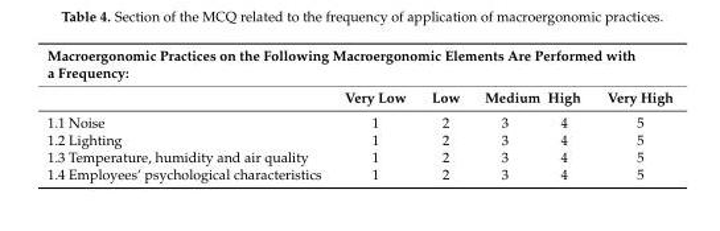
<table><thead><tr><td colspan="6">Macroergonomic Practices on the Following Macroergonomic Elements Are Performed with a Frequency:</td></tr><tr><td></td><td>Very Low</td><td>Low</td><td>Medium</td><td>High</td><td>Very High</td></tr></thead><tbody><tr><td>1.1 Noise</td><td>1</td><td>2</td><td>3</td><td>4</td><td>5</td></tr><tr><td>1.2 Lighting</td><td>1</td><td>2</td><td>3</td><td>4</td><td>5</td></tr><tr><td>1.3 Temperature, humidity and air quality</td><td>1</td><td>2</td><td>3</td><td>4</td><td>5</td></tr><tr><td>1.4 Employees’ psychological characteristics</td><td>1</td><td>2</td><td>3</td><td>4</td><td>5</td></tr></tbody></table>